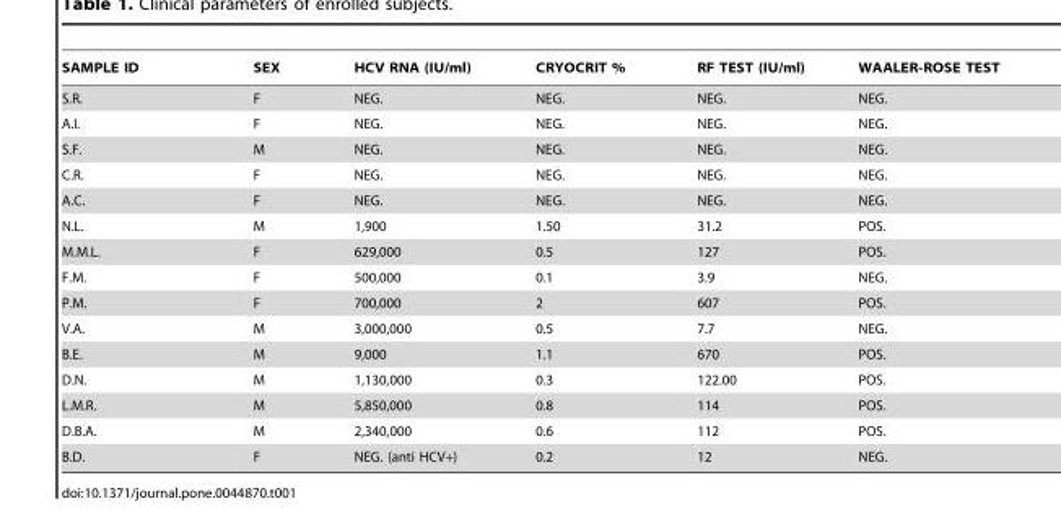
<table><thead><tr><td>SAMPLE ID</td><td>SEX</td><td>HCV RNA (IU/ml)</td><td>CRYOCRIT %</td><td>RF TEST (IU/ml)</td><td>WAALER-ROSE TEST</td></tr></thead><tbody><tr><td>S.R.</td><td>F</td><td>NEG.</td><td>NEG.</td><td>NEG.</td><td>NEG.</td></tr><tr><td>A.I.</td><td>F</td><td>NEG.</td><td>NEG.</td><td>NEG.</td><td>NEG.</td></tr><tr><td>S.F.</td><td>M</td><td>NEG.</td><td>NEG.</td><td>NEG.</td><td>NEG.</td></tr><tr><td>C.R.</td><td>F</td><td>NEG.</td><td>NEG.</td><td>NEG.</td><td>NEG.</td></tr><tr><td>A.C.</td><td>F</td><td>NEG.</td><td>NEG.</td><td>NEG.</td><td>NEG.</td></tr><tr><td>N.L.</td><td>M</td><td>1,900</td><td>1.50</td><td>31.2</td><td>POS.</td></tr><tr><td>M.M.L.</td><td>F</td><td>629,000</td><td>0.5</td><td>127</td><td>POS.</td></tr><tr><td>F.M.</td><td>F</td><td>500,000</td><td>0.1</td><td>3.9</td><td>NEG.</td></tr><tr><td>P.M.</td><td>F</td><td>700,000</td><td>2</td><td>607</td><td>POS.</td></tr><tr><td>V.A.</td><td>M</td><td>3,000,000</td><td>0.5</td><td>7.7</td><td>NEG.</td></tr><tr><td>B.E.</td><td>M</td><td>9,000</td><td>1.1</td><td>670</td><td>POS.</td></tr><tr><td>D.N.</td><td>M</td><td>1,130,000</td><td>0.3</td><td>122.00</td><td>POS.</td></tr><tr><td>L.M.R.</td><td>M</td><td>5,850,000</td><td>0.8</td><td>114</td><td>POS.</td></tr><tr><td>D.B.A.</td><td>M</td><td>2,340,000</td><td>0.6</td><td>112</td><td>POS.</td></tr><tr><td>B.D.</td><td>F</td><td>NEG. (anti HCV+)</td><td>0.2</td><td>12</td><td>NEG.</td></tr></tbody></table>